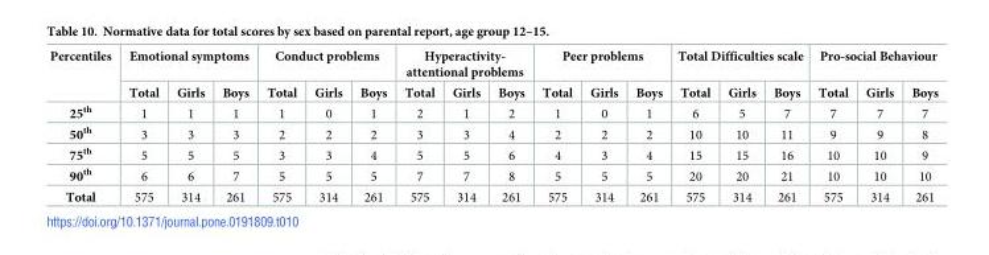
<table><thead><tr><td rowspan="2">Percentiles</td><td colspan="3">Emotional symptoms</td><td colspan="3">Conduct problems</td><td colspan="3">Hyperactivity- attentional problems</td><td colspan="3">Peer problems</td><td colspan="3">Total Difficulties scale</td><td colspan="3">Pro-social Behaviour</td></tr><tr><td>Total</td><td>Girls</td><td>Boys</td><td>Total</td><td>Girls</td><td>Boys</td><td>Total</td><td>Girls</td><td>Boys</td><td>Total</td><td>Girls</td><td>Boys</td><td>Total</td><td>Girls</td><td>Boys</td><td>Total</td><td>Girls</td><td>Boys</td></tr></thead><tbody><tr><td>25<sup>th</sup></td><td>1</td><td>1</td><td>1</td><td>1</td><td>0</td><td>1</td><td>2</td><td>1</td><td>2</td><td>1</td><td>0</td><td>1</td><td>6</td><td>5</td><td>7</td><td>7</td><td>7</td><td>7</td></tr><tr><td>50<sup>th</sup></td><td>3</td><td>3</td><td>3</td><td>2</td><td>2</td><td>2</td><td>3</td><td>3</td><td>4</td><td>2</td><td>2</td><td>2</td><td>10</td><td>10</td><td>11</td><td>9</td><td>9</td><td>8</td></tr><tr><td>75<sup>th</sup></td><td>5</td><td>5</td><td>5</td><td>3</td><td>3</td><td>4</td><td>5</td><td>5</td><td>6</td><td>4</td><td>3</td><td>4</td><td>15</td><td>15</td><td>16</td><td>10</td><td>10</td><td>9</td></tr><tr><td>90<sup>th</sup></td><td>6</td><td>6</td><td>7</td><td>5</td><td>5</td><td>5</td><td>7</td><td>7</td><td>8</td><td>5</td><td>5</td><td>5</td><td>20</td><td>20</td><td>21</td><td>10</td><td>10</td><td>10</td></tr><tr><td>Total</td><td>575</td><td>314</td><td>261</td><td>575</td><td>314</td><td>261</td><td>575</td><td>314</td><td>261</td><td>575</td><td>314</td><td>261</td><td>575</td><td>314</td><td>261</td><td>575</td><td>314</td><td>261</td></tr></tbody></table>